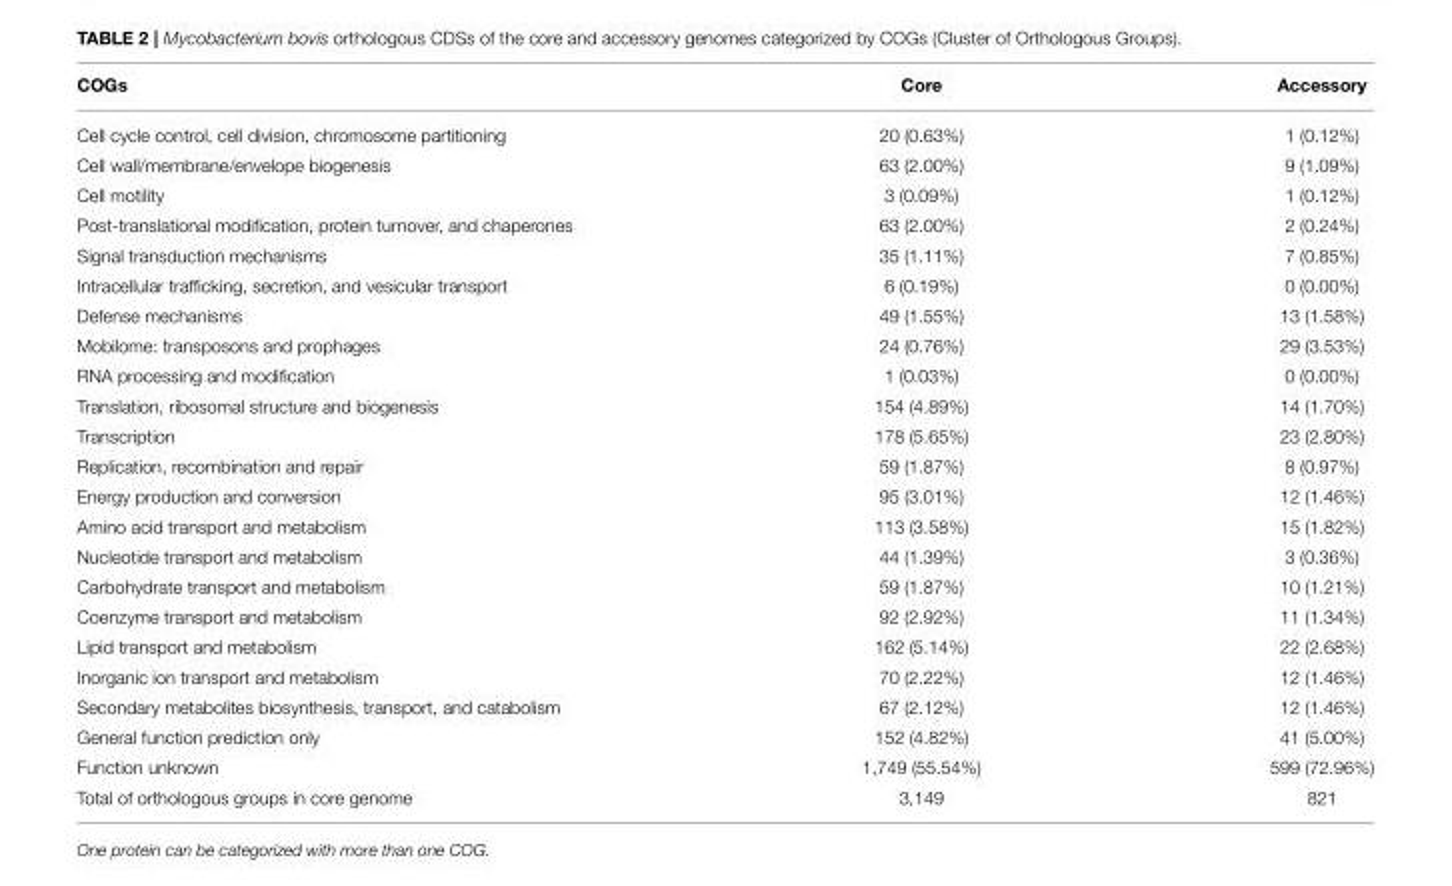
<table><thead><tr><td>COGs</td><td>Core</td><td>Accessory</td></tr></thead><tbody><tr><td>Cell cycle control, cell division, chromosome partitioning</td><td>20 (0.63%)</td><td>1 (0.12%)</td></tr><tr><td>Cell wall/membrane/envelope biogenesis</td><td>63 (2.00%)</td><td>9 (1.09%)</td></tr><tr><td>Cell motility</td><td>3 (0.09%)</td><td>1 (0.12%)</td></tr><tr><td>Post-translational modification, protein turnover, and chaperones</td><td>63 (2.00%)</td><td>2 (0.24%)</td></tr><tr><td>Signal transduction mechanisms</td><td>35 (1.11%)</td><td>7 (0.85%)</td></tr><tr><td>Intracellular trafficking, secretion, and vesicular transport</td><td>6 (0.19%)</td><td>0 (0.00%)</td></tr><tr><td>Defense mechanisms</td><td>49 (1.55%)</td><td>13 (1.58%)</td></tr><tr><td>Mobilome: transposons and prophages</td><td>24 (0.76%)</td><td>29 (3.53%)</td></tr><tr><td>RNA processing and modification</td><td>1 (0.03%)</td><td>0 (0.00%)</td></tr><tr><td>Translation, ribosomal structure and biogenesis</td><td>154 (4.89%)</td><td>14 (1.70%)</td></tr><tr><td>Transcription</td><td>178 (5.65%)</td><td>23 (2.80%)</td></tr><tr><td>Replication, recombination and repair</td><td>59 (1.87%)</td><td>8 (0.97%)</td></tr><tr><td>Energy production and conversion</td><td>95 (3.01%)</td><td>12 (1.46%)</td></tr><tr><td>Amino acid transport and metabolism</td><td>113 (3.58%)</td><td>15 (1.82%)</td></tr><tr><td>Nucleotide transport and metabolism</td><td>44 (1.39%)</td><td>3 (0.36%)</td></tr><tr><td>Carbohydrate transport and metabolism</td><td>59 (1.87%)</td><td>10 (1.21%)</td></tr><tr><td>Coenzyme transport and metabolism</td><td>92 (2.92%)</td><td>11 (1.34%)</td></tr><tr><td>Lipid transport and metabolism</td><td>162 (5.14%)</td><td>22 (2.68%)</td></tr><tr><td>Inorganic ion transport and metabolism</td><td>70 (2.22%)</td><td>12 (1.46%)</td></tr><tr><td>Secondary metabolites biosynthesis, transport, and catabolism</td><td>67 (2.12%)</td><td>12 (1.46%)</td></tr><tr><td>General function prediction only</td><td>152 (4.82%)</td><td>41 (5.00%)</td></tr><tr><td>Function unknown</td><td>1,749 (55.54%)</td><td>599 (72.96%)</td></tr><tr><td>Total of orthologous groups in core genome</td><td>3,149</td><td>821</td></tr></tbody></table>